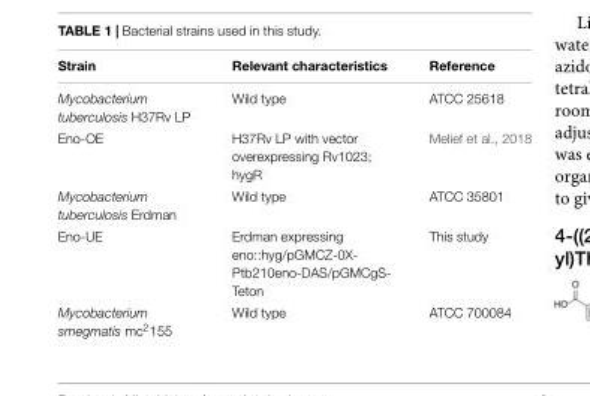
<table><thead><tr><td>Strain</td><td>Relevant characteristics</td><td>Reference</td></tr></thead><tbody><tr><td>Mycobacterium tuberculosis H37Rv LP</td><td>Wild type</td><td>ATCC 25618</td></tr><tr><td>Eno-OE</td><td>H37Rv LP with vector overexpressing Rv1023; hygR</td><td>Melief et al., 2018</td></tr><tr><td>Mycobacterium tuberculosis Erdman</td><td>Wild type</td><td>ATCC 35801</td></tr><tr><td>Eno-UE</td><td>Erdman expressing eno::hyg/pGMCZ-0X- Ptb210eno-DAS/pGMCgS- Teton</td><td>This study</td></tr><tr><td>Mycobacterium smegmatis mc<sup>2</sup>155</td><td>Wild type</td><td>ATCC 700084</td></tr></tbody></table>